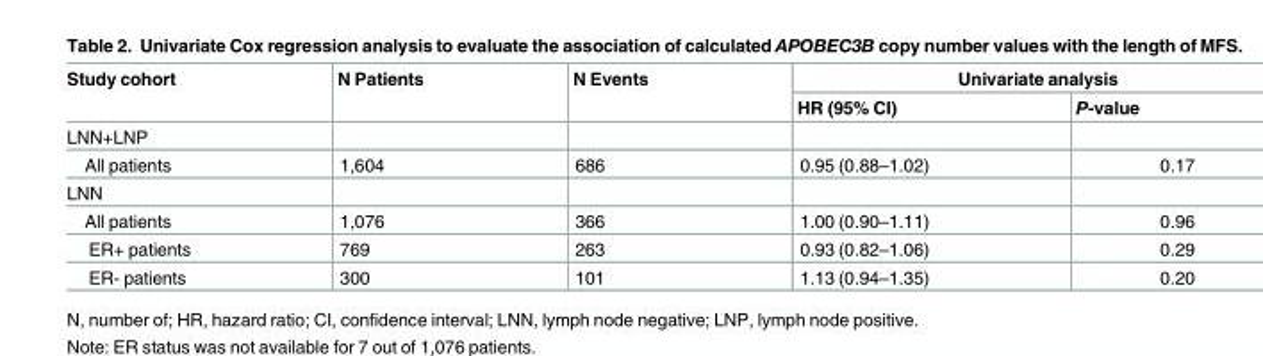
<table><thead><tr><td rowspan="2">Study cohort</td><td rowspan="2">N Patients</td><td rowspan="2">N Events</td><td colspan="2">Univariate analysis</td></tr><tr><td>HR (95% CI)</td><td>P-value</td></tr></thead><tbody><tr><td colspan="5">LNN+LNP</td></tr><tr><td>All patients</td><td>1,604</td><td>686</td><td>0.95 (0.88–1.02)</td><td>0.17</td></tr><tr><td colspan="5">LNN</td></tr><tr><td>All patients</td><td>1,076</td><td>366</td><td>1.00 (0.90–1.11)</td><td>0.96</td></tr><tr><td>ER+ patients</td><td>769</td><td>263</td><td>0.93 (0.82–1.06)</td><td>0.29</td></tr><tr><td>ER- patients</td><td>300</td><td>101</td><td>1.13 (0.94–1.35)</td><td>0.20</td></tr></tbody></table>